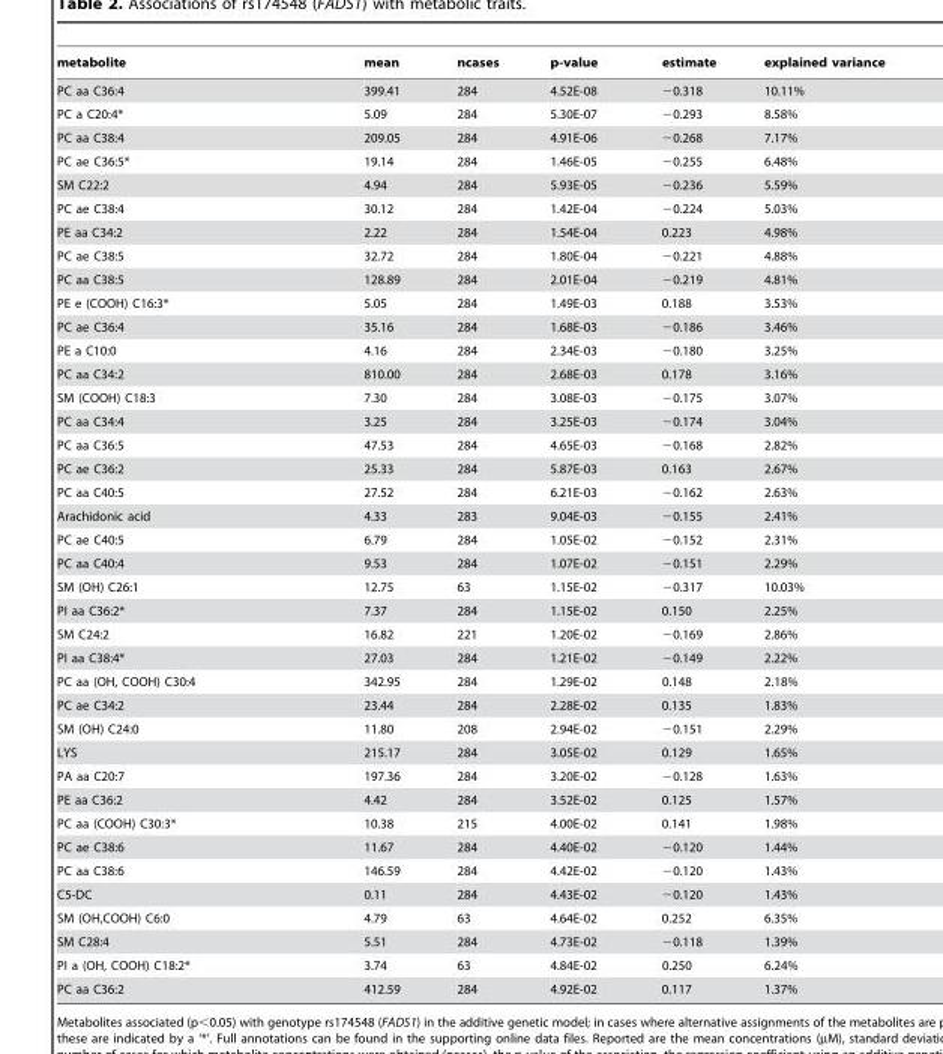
<table><thead><tr><td>metabolite</td><td>mean</td><td>ncases</td><td>p-value</td><td>estimate</td><td>explained variance</td></tr></thead><tbody><tr><td>PC aa C36:4</td><td>399.41</td><td>284</td><td>4.52E-08</td><td>−0.318</td><td>10.11%</td></tr><tr><td>PC a C20:4*</td><td>5.09</td><td>284</td><td>5.30E-07</td><td>−0.293</td><td>8.58%</td></tr><tr><td>PC aa C38:4</td><td>209.05</td><td>284</td><td>4.91E-06</td><td>−0.268</td><td>7.17%</td></tr><tr><td>PC ae C36:5*</td><td>19.14</td><td>284</td><td>1.46E-05</td><td>−0.255</td><td>6.48%</td></tr><tr><td>SM C22:2</td><td>4.94</td><td>284</td><td>5.93E-05</td><td>−0.236</td><td>5.59%</td></tr><tr><td>PC ae C38:4</td><td>30.12</td><td>284</td><td>1.42E-04</td><td>−0.224</td><td>5.03%</td></tr><tr><td>PE aa C34:2</td><td>2.22</td><td>284</td><td>1.54E-04</td><td>0.223</td><td>4.98%</td></tr><tr><td>PC ae C38:5</td><td>32.72</td><td>284</td><td>1.80E-04</td><td>−0.221</td><td>4.88%</td></tr><tr><td>PC aa C38:5</td><td>128.89</td><td>284</td><td>2.01E-04</td><td>−0.219</td><td>4.81%</td></tr><tr><td>PE e (COOH) C16:3*</td><td>5.05</td><td>284</td><td>1.49E-03</td><td>0.188</td><td>3.53%</td></tr><tr><td>PC ae C36:4</td><td>35.16</td><td>284</td><td>1.68E-03</td><td>−0.186</td><td>3.46%</td></tr><tr><td>PE a C10:0</td><td>4.16</td><td>284</td><td>2.34E-03</td><td>−0.180</td><td>3.25%</td></tr><tr><td>PC aa C34:2</td><td>810.00</td><td>284</td><td>2.68E-03</td><td>0.178</td><td>3.16%</td></tr><tr><td>SM (COOH) C18:3</td><td>7.30</td><td>284</td><td>3.08E-03</td><td>−0.175</td><td>3.07%</td></tr><tr><td>PC aa C34:4</td><td>3.25</td><td>284</td><td>3.25E-03</td><td>−0.174</td><td>3.04%</td></tr><tr><td>PC aa C36:5</td><td>47.53</td><td>284</td><td>4.65E-03</td><td>−0.168</td><td>2.82%</td></tr><tr><td>PC ae C36:2</td><td>25.33</td><td>284</td><td>5.87E-03</td><td>0.163</td><td>2.67%</td></tr><tr><td>PC aa C40:5</td><td>27.52</td><td>284</td><td>6.21E-03</td><td>−0.162</td><td>2.63%</td></tr><tr><td>Arachidonic acid</td><td>4.33</td><td>283</td><td>9.04E-03</td><td>−0.155</td><td>2.41%</td></tr><tr><td>PC ae C40:5</td><td>6.79</td><td>284</td><td>1.05E-02</td><td>−0.152</td><td>2.31%</td></tr><tr><td>PC aa C40:4</td><td>9.53</td><td>284</td><td>1.07E-02</td><td>−0.151</td><td>2.29%</td></tr><tr><td>SM (OH) C26:1</td><td>12.75</td><td>63</td><td>1.15E-02</td><td>−0.317</td><td>10.03%</td></tr><tr><td>PI aa C36:2*</td><td>7.37</td><td>284</td><td>1.15E-02</td><td>0.150</td><td>2.25%</td></tr><tr><td>SM C24:2</td><td>16.82</td><td>221</td><td>1.20E-02</td><td>−0.169</td><td>2.86%</td></tr><tr><td>PI aa C38:4*</td><td>27.03</td><td>284</td><td>1.21E-02</td><td>−0.149</td><td>2.22%</td></tr><tr><td>PC aa (OH, COOH) C30:4</td><td>342.95</td><td>284</td><td>1.29E-02</td><td>0.148</td><td>2.18%</td></tr><tr><td>PC ae C34:2</td><td>23.44</td><td>284</td><td>2.28E-02</td><td>0.135</td><td>1.83%</td></tr><tr><td>SM (OH) C24:0</td><td>11.80</td><td>208</td><td>2.94E-02</td><td>−0.151</td><td>2.29%</td></tr><tr><td>LYS</td><td>215.17</td><td>284</td><td>3.05E-02</td><td>0.129</td><td>1.65%</td></tr><tr><td>PA aa C20:7</td><td>197.36</td><td>284</td><td>3.20E-02</td><td>−0.128</td><td>1.63%</td></tr><tr><td>PE aa C36:2</td><td>4.42</td><td>284</td><td>3.52E-02</td><td>0.125</td><td>1.57%</td></tr><tr><td>PC aa (COOH) C30:3*</td><td>10.38</td><td>215</td><td>4.00E-02</td><td>0.141</td><td>1.98%</td></tr><tr><td>PC ae C38:6</td><td>11.67</td><td>284</td><td>4.40E-02</td><td>−0.120</td><td>1.44%</td></tr><tr><td>PC aa C38:6</td><td>146.59</td><td>284</td><td>4.42E-02</td><td>−0.120</td><td>1.43%</td></tr><tr><td>C5-DC</td><td>0.11</td><td>284</td><td>4.43E-02</td><td>−0.120</td><td>1.43%</td></tr><tr><td>SM (OH,COOH) C6:0</td><td>4.79</td><td>63</td><td>4.64E-02</td><td>0.252</td><td>6.35%</td></tr><tr><td>SM C28:4</td><td>5.51</td><td>284</td><td>4.73E-02</td><td>−0.118</td><td>1.39%</td></tr><tr><td>PI a (OH, COOH) C18:2*</td><td>3.74</td><td>63</td><td>4.84E-02</td><td>0.250</td><td>6.24%</td></tr><tr><td>PC aa C36:2</td><td>412.59</td><td>284</td><td>4.92E-02</td><td>0.117</td><td>1.37%</td></tr></tbody></table>